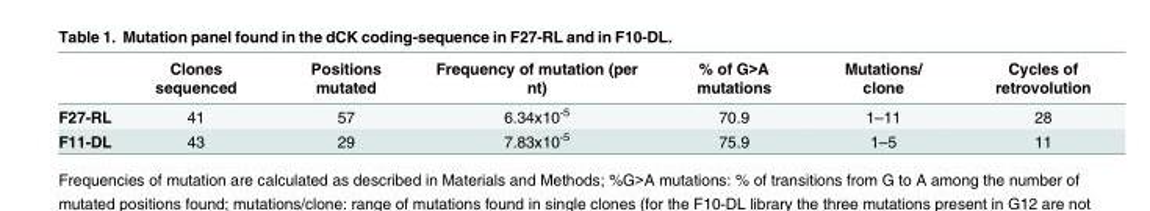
<table><thead><tr><td></td><td>Clones sequenced</td><td>Positions mutated</td><td>Frequency of mutation (per nt)</td><td>% of G&gt;A mutations</td><td>Mutations/ clone</td><td>Cycles of retrovolution</td></tr></thead><tbody><tr><td>F27-RL</td><td>41</td><td>57</td><td>6.34x10<sup>-5</sup></td><td>70.9</td><td>1–11</td><td>28</td></tr><tr><td>F11-DL</td><td>43</td><td>29</td><td>7.83x10<sup>-5</sup></td><td>75.9</td><td>1–5</td><td>11</td></tr></tbody></table>